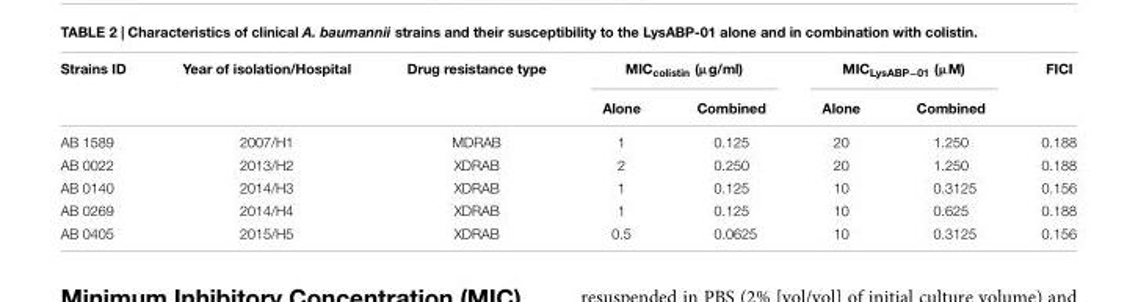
<table><thead><tr><td rowspan="2">Strains ID</td><td rowspan="2">Year of isolation/Hospital</td><td rowspan="2">Drug resistance type</td><td colspan="2">MIC<sub>colistin</sub> (µg/ml)</td><td colspan="2">MIC<sub>LysABP−01</sub> (µM)</td><td rowspan="2">FICI</td></tr><tr><td>Alone</td><td>Combined</td><td>Alone</td><td>Combined</td></tr></thead><tbody><tr><td>AB 1589</td><td>2007/H1</td><td>MDRAB</td><td>1</td><td>0.125</td><td>20</td><td>1.250</td><td>0.188</td></tr><tr><td>AB 0022</td><td>2013/H2</td><td>XDRAB</td><td>2</td><td>0.250</td><td>20</td><td>1.250</td><td>0.188</td></tr><tr><td>AB 0140</td><td>2014/H3</td><td>XDRAB</td><td>1</td><td>0.125</td><td>10</td><td>0.3125</td><td>0.156</td></tr><tr><td>AB 0269</td><td>2014/H4</td><td>XDRAB</td><td>1</td><td>0.125</td><td>10</td><td>0.625</td><td>0.188</td></tr><tr><td>AB 0405</td><td>2015/H5</td><td>XDRAB</td><td>0.5</td><td>0.0625</td><td>10</td><td>0.3125</td><td>0.156</td></tr></tbody></table>